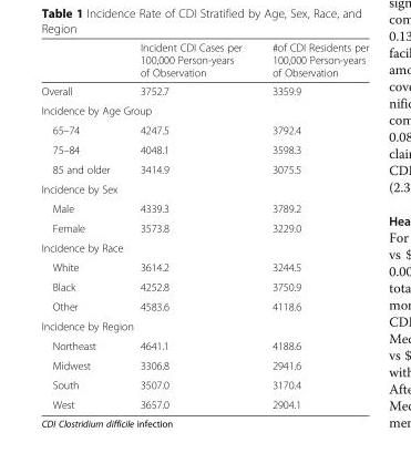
<table><thead><tr><td></td><td>Incident CDI Cases per 100,000 Person-years of Observation</td><td>#of CDI Residents per 100,000 Person-years of Observation</td></tr></thead><tbody><tr><td>Overall</td><td>3752.7</td><td>3359.9</td></tr><tr><td colspan="3">Incidence by Age Group</td></tr><tr><td>65–74</td><td>4247.5</td><td>3792.4</td></tr><tr><td>75–84</td><td>4048.1</td><td>3598.3</td></tr><tr><td>85 and older</td><td>3414.9</td><td>3075.5</td></tr><tr><td colspan="3">Incidence by Sex</td></tr><tr><td>Male</td><td>4339.3</td><td>3789.2</td></tr><tr><td>Female</td><td>3573.8</td><td>3229.0</td></tr><tr><td colspan="3">Incidence by Race</td></tr><tr><td>White</td><td>3614.2</td><td>3244.5</td></tr><tr><td>Black</td><td>4252.8</td><td>3750.9</td></tr><tr><td>Other</td><td>4583.6</td><td>4118.6</td></tr><tr><td colspan="3">Incidence by Region</td></tr><tr><td>Northeast</td><td>4641.1</td><td>4188.6</td></tr><tr><td>Midwest</td><td>3306.8</td><td>2941.6</td></tr><tr><td>South</td><td>3507.0</td><td>3170.4</td></tr><tr><td>West</td><td>3657.0</td><td>2904.1</td></tr></tbody></table>